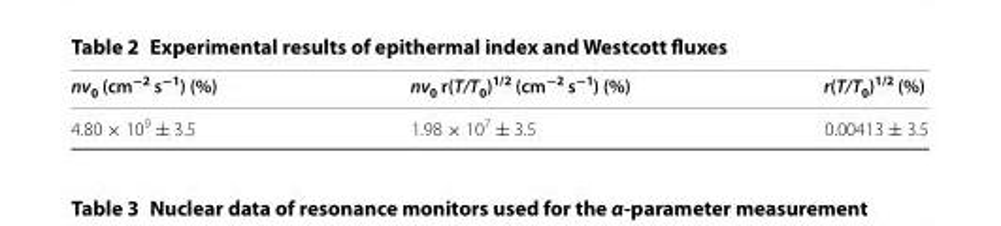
<table><thead><tr><td>nv<sub>0</sub> (cm<sup>−2</sup> s<sup>−1</sup>) (%)</td><td>nv<sub>0</sub> r(T/T<sub>0</sub>)<sup>1/2</sup> (cm<sup>−2</sup> s<sup>−1</sup>) (%)</td><td>r(T/T<sub>0</sub>)<sup>1/2</sup> (%)</td></tr></thead><tbody><tr><td>4.80 × 10<sup>9</sup> ± 3.5</td><td>1.98 × 10<sup>7</sup> ± 3.5</td><td>0.00413 ± 3.5</td></tr></tbody></table>